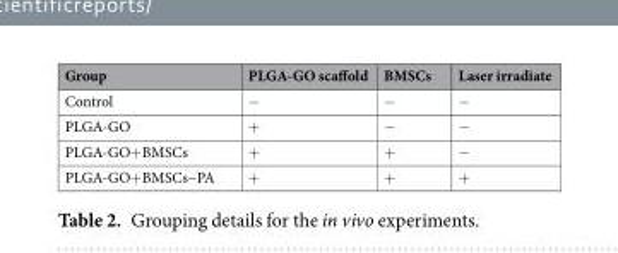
<table><thead><tr><td>Group</td><td>PLGA-GO scaffold</td><td>BMSCs</td><td>Laser irradiate</td></tr></thead><tbody><tr><td>Control</td><td>−</td><td>−</td><td>−</td></tr><tr><td>PLGA-GO</td><td>+</td><td>−</td><td>−</td></tr><tr><td>PLGA-GO+BMSCs</td><td>+</td><td>+</td><td>−</td></tr><tr><td>PLGA-GO+BMSCs~PA</td><td>+</td><td>+</td><td>+</td></tr></tbody></table>